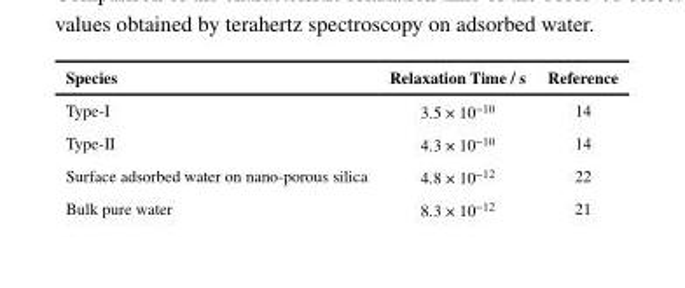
<table><thead><tr><td>Species</td><td>Relaxation Time / s</td><td>Reference</td></tr></thead><tbody><tr><td>Type-I</td><td>3.5 × 10<sup>−10</sup></td><td>14</td></tr><tr><td>Type-II</td><td>4.3 × 10<sup>−10</sup></td><td>14</td></tr><tr><td>Surface adsorbed water on nano-porous silica</td><td>4.8 × 10<sup>−12</sup></td><td>22</td></tr><tr><td>Bulk pure water</td><td>8.3 × 10<sup>−12</sup></td><td>21</td></tr></tbody></table>